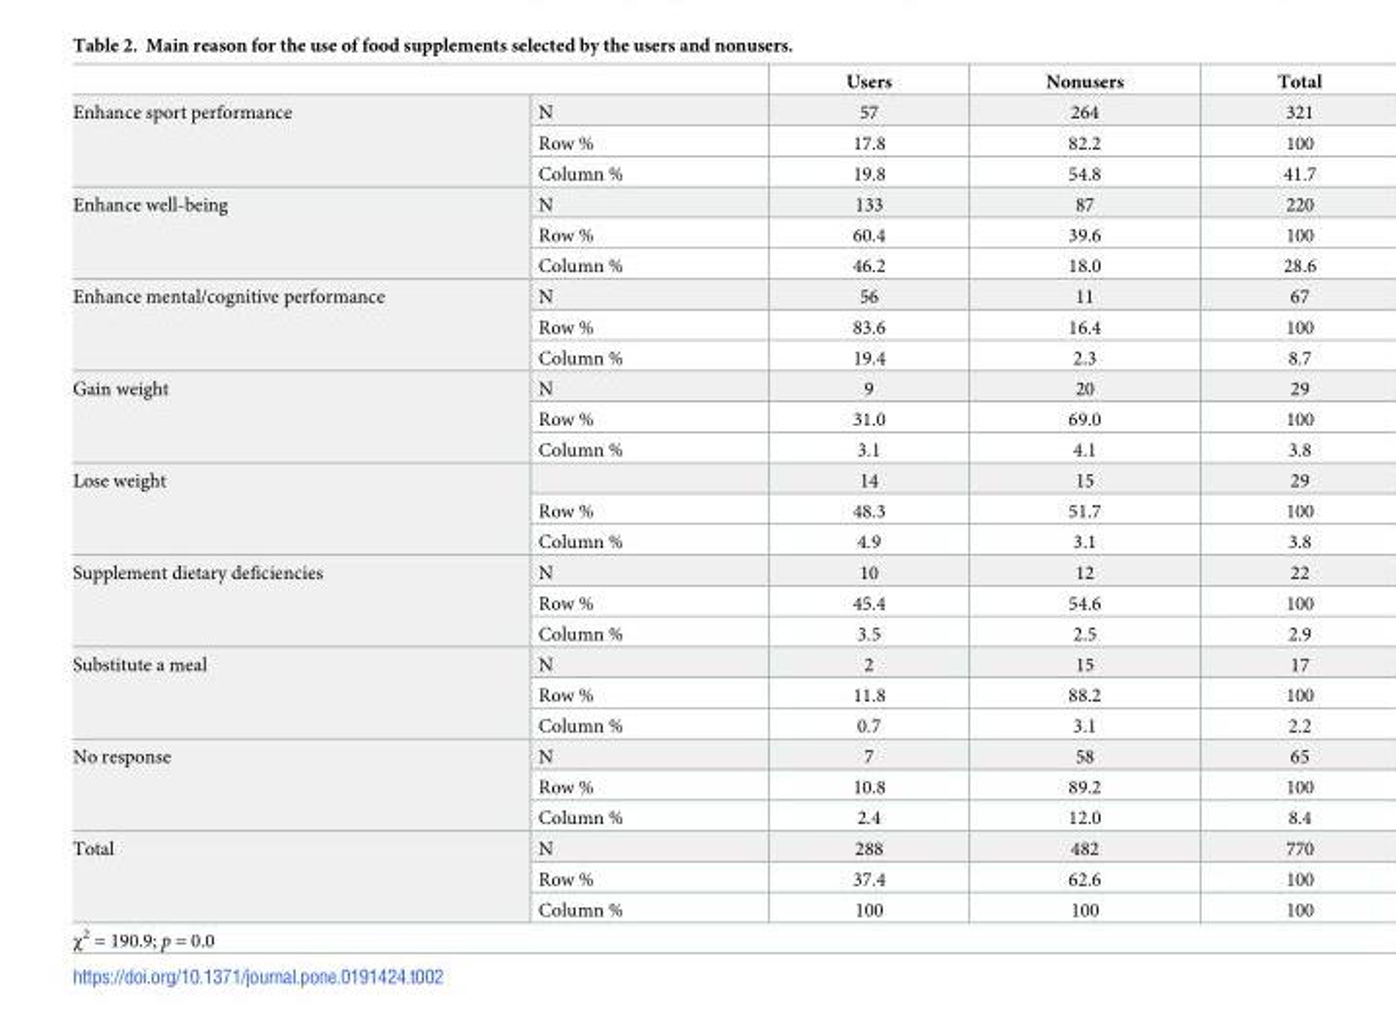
<table><thead><tr><td></td><td></td><td>Users</td><td>Nonusers</td><td>Total</td></tr></thead><tbody><tr><td rowspan="3">Enhance sport performance</td><td>N</td><td>57</td><td>264</td><td>321</td></tr><tr><td>Row %</td><td>17.8</td><td>82.2</td><td>100</td></tr><tr><td>Column %</td><td>19.8</td><td>54.8</td><td>41.7</td></tr><tr><td rowspan="3">Enhance well-being</td><td>N</td><td>133</td><td>87</td><td>220</td></tr><tr><td>Row %</td><td>60.4</td><td>39.6</td><td>100</td></tr><tr><td>Column %</td><td>46.2</td><td>18.0</td><td>28.6</td></tr><tr><td rowspan="3">Enhance mental/cognitive performance</td><td>N</td><td>56</td><td>11</td><td>67</td></tr><tr><td>Row %</td><td>83.6</td><td>16.4</td><td>100</td></tr><tr><td>Column %</td><td>19.4</td><td>2.3</td><td>8.7</td></tr><tr><td rowspan="3">Gain weight</td><td>N</td><td>9</td><td>20</td><td>29</td></tr><tr><td>Row %</td><td>31.0</td><td>69.0</td><td>100</td></tr><tr><td>Column %</td><td>3.1</td><td>4.1</td><td>3.8</td></tr><tr><td rowspan="3">Lose weight</td><td></td><td>14</td><td>15</td><td>29</td></tr><tr><td>Row %</td><td>48.3</td><td>51.7</td><td>100</td></tr><tr><td>Column %</td><td>4.9</td><td>3.1</td><td>3.8</td></tr><tr><td rowspan="3">Supplement dietary deficiencies</td><td>N</td><td>10</td><td>12</td><td>22</td></tr><tr><td>Row %</td><td>45.4</td><td>54.6</td><td>100</td></tr><tr><td>Column %</td><td>3.5</td><td>2.5</td><td>2.9</td></tr><tr><td rowspan="3">Substitute a meal</td><td>N</td><td>2</td><td>15</td><td>17</td></tr><tr><td>Row %</td><td>11.8</td><td>88.2</td><td>100</td></tr><tr><td>Column %</td><td>0.7</td><td>3.1</td><td>2.2</td></tr><tr><td rowspan="3">No response</td><td>N</td><td>7</td><td>58</td><td>65</td></tr><tr><td>Row %</td><td>10.8</td><td>89.2</td><td>100</td></tr><tr><td>Column %</td><td>2.4</td><td>12.0</td><td>8.4</td></tr><tr><td rowspan="3">Total</td><td>N</td><td>288</td><td>482</td><td>770</td></tr><tr><td>Row %</td><td>37.4</td><td>62.6</td><td>100</td></tr><tr><td>Column %</td><td>100</td><td>100</td><td>100</td></tr><tr><td colspan="5">χ<sup>2</sup> = 190.9; p = 0.0</td></tr></tbody></table>